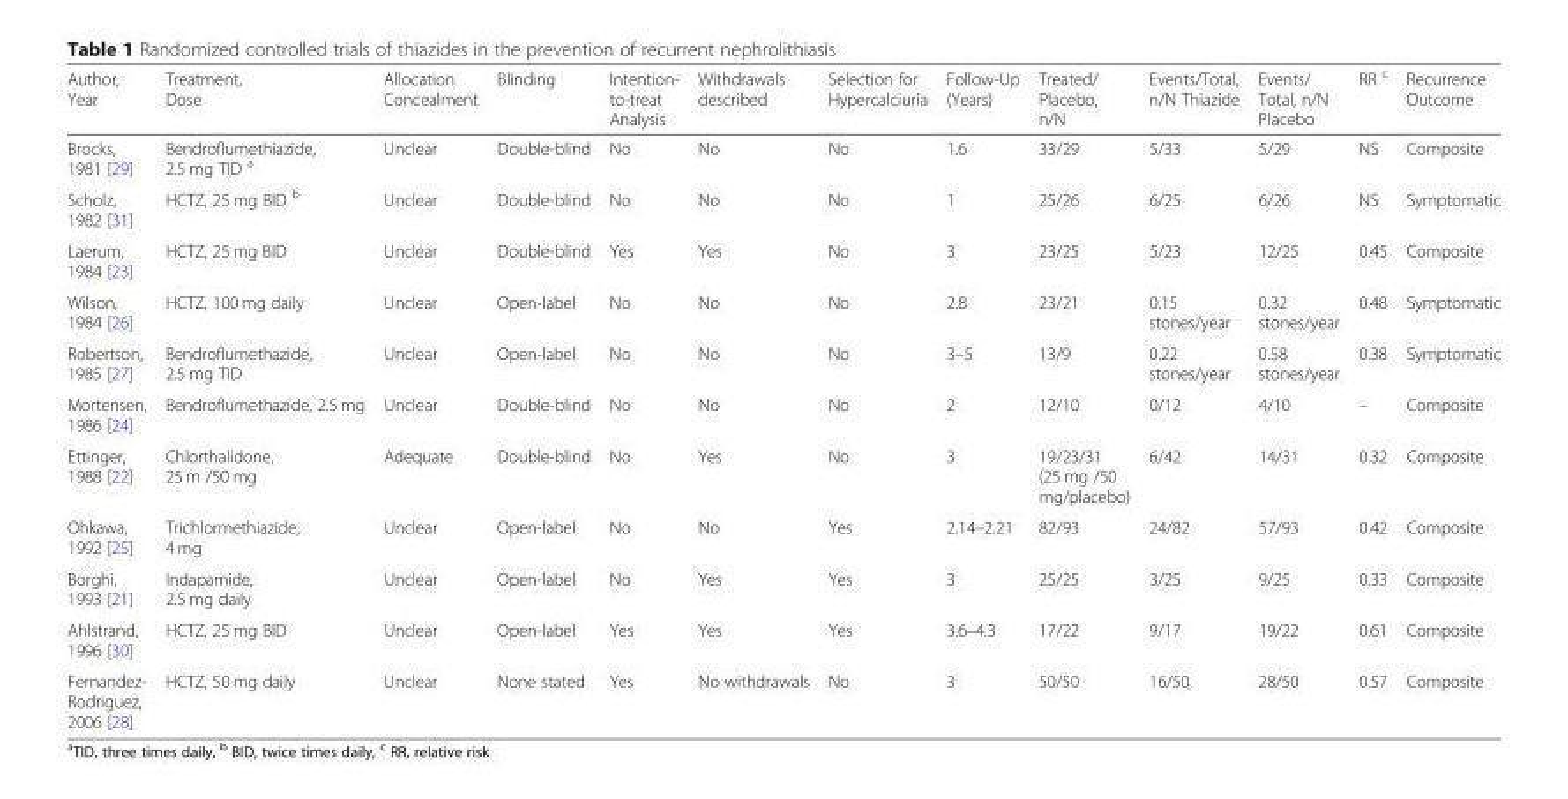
<table><thead><tr><td>Author, Year</td><td>Treatment, Dose</td><td>Allocation Concealment</td><td>Blinding</td><td>Intention- to-treat Analysis</td><td>Withdrawals described</td><td>Selection for Hypercalciuria</td><td>Follow-Up (Years)</td><td>Treated/ Placebo, n/N</td><td>Events/Total, n/N Thiazide</td><td>Events/ Total, n/N Placebo</td><td>RR <sup>c</sup></td><td>Recurrence Outcome</td></tr></thead><tbody><tr><td>Brocks, 1981 [29]</td><td>Bendroflumethiazide, 2.5 mg TID <sup>a</sup></td><td>Unclear</td><td>Double-blind</td><td>No</td><td>No</td><td>No</td><td>1.6</td><td>33/29</td><td>5/33</td><td>5/29</td><td>NS</td><td>Composite</td></tr><tr><td>Scholz, 1982 [31]</td><td>HCTZ, 25 mg BID <sup>b</sup></td><td>Unclear</td><td>Double-blind</td><td>No</td><td>No</td><td>No</td><td>1</td><td>25/26</td><td>6/25</td><td>6/26</td><td>NS</td><td>Symptomatic</td></tr><tr><td>Laerum, 1984 [23]</td><td>HCTZ, 25 mg BID</td><td>Unclear</td><td>Double-blind</td><td>Yes</td><td>Yes</td><td>No</td><td>3</td><td>23/25</td><td>5/23</td><td>12/25</td><td>0.45</td><td>Composite</td></tr><tr><td>Wilson, 1984 [26]</td><td>HCTZ, 100 mg daily</td><td>Unclear</td><td>Open-label</td><td>No</td><td>No</td><td>No</td><td>2.8</td><td>23/21</td><td>0.15 stones/year</td><td>0.32 stones/year</td><td>0.48</td><td>Symptomatic</td></tr><tr><td>Robertson, 1985 [27]</td><td>Bendroflumethazide, 2.5 mg TID</td><td>Unclear</td><td>Open-label</td><td>No</td><td>No</td><td>No</td><td>3–5</td><td>13/9</td><td>0.22 stones/year</td><td>0.58 stones/year</td><td>0.38</td><td>Symptomatic</td></tr><tr><td>Mortensen, 1986 [24]</td><td>Bendroflumethazide, 2.5 mg</td><td>Unclear</td><td>Double-blind</td><td>No</td><td>No</td><td>No</td><td>2</td><td>12/10</td><td>0/12</td><td>4/10</td><td>–</td><td>Composite</td></tr><tr><td>Ettinger, 1988 [22]</td><td>Chlorthalidone, 25 m /50 mg</td><td>Adequate</td><td>Double-blind</td><td>No</td><td>Yes</td><td>No</td><td>3</td><td>19/23/31 (25 mg /50 mg/placebo)</td><td>6/42</td><td>14/31</td><td>0.32</td><td>Composite</td></tr><tr><td>Ohkawa, 1992 [25]</td><td>Trichlormethiazide, 4 mg</td><td>Unclear</td><td>Open-label</td><td>No</td><td>No</td><td>Yes</td><td>2.14–2.21</td><td>82/93</td><td>24/82</td><td>57/93</td><td>0.42</td><td>Composite</td></tr><tr><td>Borghi, 1993 [21]</td><td>Indapamide, 2.5 mg daily</td><td>Unclear</td><td>Open-label</td><td>No</td><td>Yes</td><td>Yes</td><td>3</td><td>25/25</td><td>3/25</td><td>9/25</td><td>0.33</td><td>Composite</td></tr><tr><td>Ahlstrand, 1996 [30]</td><td>HCTZ, 25 mg BID</td><td>Unclear</td><td>Open-label</td><td>Yes</td><td>Yes</td><td>Yes</td><td>3.6–4.3</td><td>17/22</td><td>9/17</td><td>19/22</td><td>0.61</td><td>Composite</td></tr><tr><td>Fernandez- Rodriguez, 2006 [28]</td><td>HCTZ, 50 mg daily</td><td>Unclear</td><td>None stated</td><td>Yes</td><td>No withdrawals</td><td>No</td><td>3</td><td>50/50</td><td>16/50</td><td>28/50</td><td>0.57</td><td>Composite</td></tr></tbody></table>